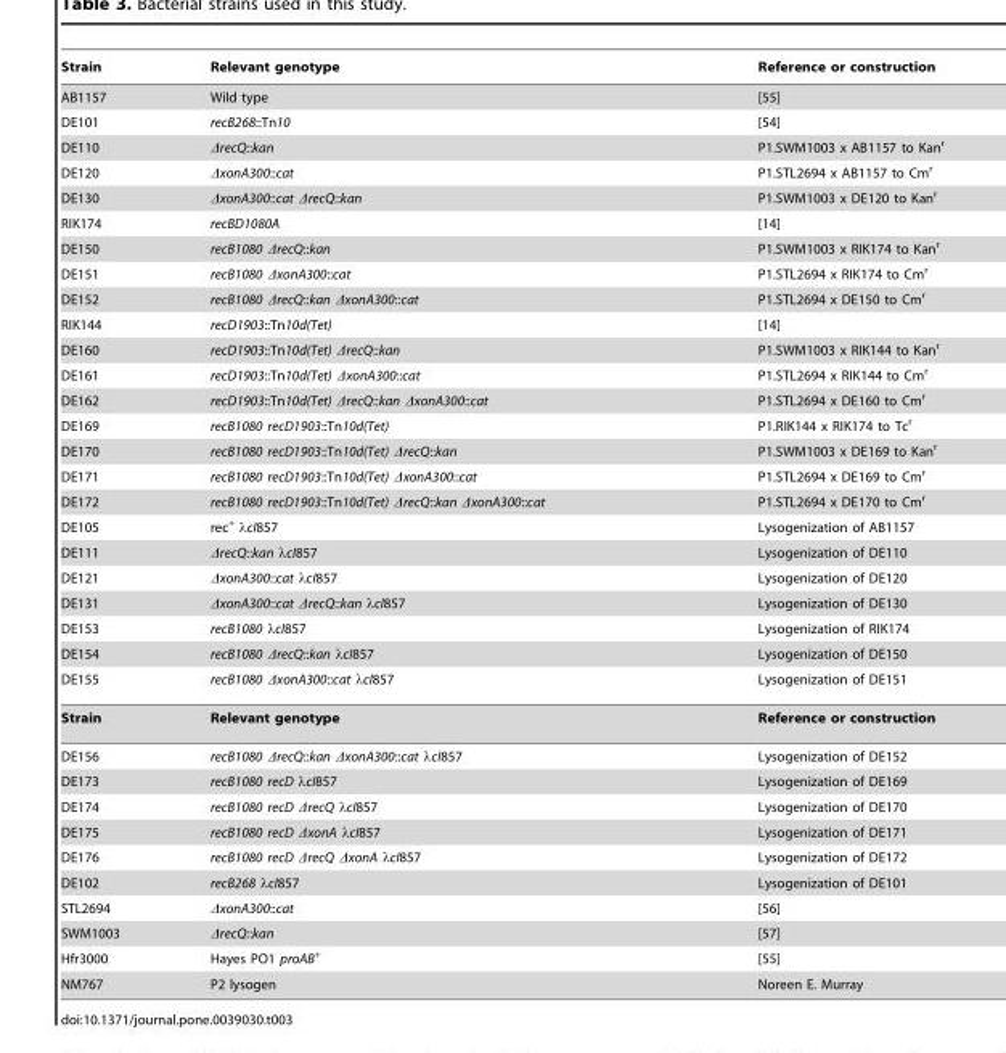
<table><thead><tr><td>Strain</td><td>Relevant genotype</td><td>Reference or construction</td></tr></thead><tbody><tr><td>AB1157</td><td>Wild type</td><td>[55]</td></tr><tr><td>DE101</td><td>recB268::Tn10</td><td>[54]</td></tr><tr><td>DE110</td><td>ΔrecQ::kan</td><td>P1.SWM1003 x AB1157 to Kan<sup>r</sup></td></tr><tr><td>DE120</td><td>ΔxonA300::cat</td><td>P1.STL2694 x AB1157 to Cm<sup>r</sup></td></tr><tr><td>DE130</td><td>ΔxonA300::cat ΔrecQ::kan</td><td>P1.SWM1003 x DE120 to Kan<sup>r</sup></td></tr><tr><td>RIK174</td><td>recBD1080A</td><td>[14]</td></tr><tr><td>DE150</td><td>recB1080 ΔrecQ::kan</td><td>P1.SWM1003 x RIK174 to Kan<sup>r</sup></td></tr><tr><td>DE151</td><td>recB1080 ΔxonA300::cat</td><td>P1.STL2694 x RIK174 to Cm<sup>r</sup></td></tr><tr><td>DE152</td><td>recB1080 ΔrecQ::kan ΔxonA300::cat</td><td>P1.STL2694 x DE150 to Cm<sup>r</sup></td></tr><tr><td>RIK144</td><td>recD1903::Tn10d(Tet)</td><td>[14]</td></tr><tr><td>DE160</td><td>recD1903::Tn10d(Tet) ΔrecQ::kan</td><td>P1.SWM1003 x RIK144 to Kan<sup>r</sup></td></tr><tr><td>DE161</td><td>recD1903::Tn10d(Tet) ΔxonA300::cat</td><td>P1.STL2694 x RIK144 to Cm<sup>r</sup></td></tr><tr><td>DE162</td><td>recD1903::Tn10d(Tet) ΔrecQ::kan ΔxonA300::cat</td><td>P1.STL2694 x DE160 to Cm<sup>r</sup></td></tr><tr><td>DE169</td><td>recB1080 recD1903::Tn10d(Tet)</td><td>P1.RIK144 x RIK174 to Tc<sup>r</sup></td></tr><tr><td>DE170</td><td>recB1080 recD1903::Tn10d(Tet) ΔrecQ::kan</td><td>P1.SWM1003 x DE169 to Kan<sup>r</sup></td></tr><tr><td>DE171</td><td>recB1080 recD1903::Tn10d(Tet) ΔxonA300::cat</td><td>P1.STL2694 x DE169 to Cm<sup>r</sup></td></tr><tr><td>DE172</td><td>recB1080 recD1903::Tn10d(Tet) ΔrecQ::kan ΔxonA300::cat</td><td>P1.STL2694 x DE170 to Cm<sup>r</sup></td></tr><tr><td>DE105</td><td>rec<sup>+</sup> λcI857</td><td>Lysogenization of AB1157</td></tr><tr><td>DE111</td><td>ΔrecQ::kan λcI857</td><td>Lysogenization of DE110</td></tr><tr><td>DE121</td><td>ΔxonA300::cat λcI857</td><td>Lysogenization of DE120</td></tr><tr><td>DE131</td><td>ΔxonA300::cat ΔrecQ::kan λcI857</td><td>Lysogenization of DE130</td></tr><tr><td>DE153</td><td>recB1080 λcI857</td><td>Lysogenization of RIK174</td></tr><tr><td>DE154</td><td>recB1080 ΔrecQ::kan λcI857</td><td>Lysogenization of DE150</td></tr><tr><td>DE155</td><td>recB1080 ΔxonA300::cat λcI857</td><td>Lysogenization of DE151</td></tr><tr><td>Strain</td><td>Relevant genotype</td><td>Reference or construction</td></tr><tr><td>DE156</td><td>recB1080 ΔrecQ::kan ΔxonA300::cat λcI857</td><td>Lysogenization of DE152</td></tr><tr><td>DE173</td><td>recB1080 recD λcI857</td><td>Lysogenization of DE169</td></tr><tr><td>DE174</td><td>recB1080 recD ΔrecQ λcI857</td><td>Lysogenization of DE170</td></tr><tr><td>DE175</td><td>recB1080 recD ΔxonA λcI857</td><td>Lysogenization of DE171</td></tr><tr><td>DE176</td><td>recB1080 recD ΔrecQ ΔxonA λcI857</td><td>Lysogenization of DE172</td></tr><tr><td>DE102</td><td>recB268 λcI857</td><td>Lysogenization of DE101</td></tr><tr><td>STL2694</td><td>ΔxonA300::cat</td><td>[56]</td></tr><tr><td>SWM1003</td><td>ΔrecQ::kan</td><td>[57]</td></tr><tr><td>Hfr3000</td><td>Hayes PO1 proAB<sup>+</sup></td><td>[55]</td></tr><tr><td>NM767</td><td>P2 lysogen</td><td>Noreen E. Murray</td></tr></tbody></table>